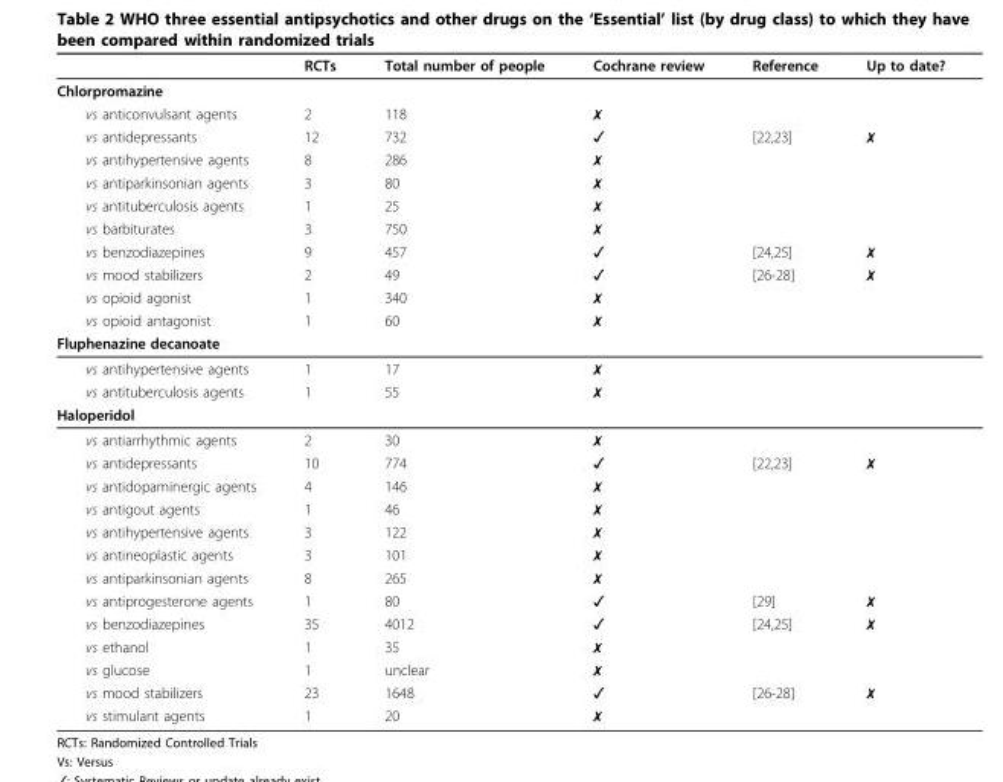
<table><thead><tr><td></td><td>RCTs</td><td>Total number of people</td><td>Cochrane review</td><td>Reference</td><td>Up to date?</td></tr></thead><tbody><tr><td colspan="6">Chlorpromazine</td></tr><tr><td>vs anticonvulsant agents</td><td>2</td><td>118</td><td>✗</td><td></td><td></td></tr><tr><td>vs antidepressants</td><td>12</td><td>732</td><td>✓</td><td>[22,23]</td><td>✗</td></tr><tr><td>vs antihypertensive agents</td><td>8</td><td>286</td><td>✗</td><td></td><td></td></tr><tr><td>vs antiparkinsonian agents</td><td>3</td><td>80</td><td>✗</td><td></td><td></td></tr><tr><td>vs antituberculosis agents</td><td>1</td><td>25</td><td>✗</td><td></td><td></td></tr><tr><td>vs barbiturates</td><td>3</td><td>750</td><td>✗</td><td></td><td></td></tr><tr><td>vs benzodiazepines</td><td>9</td><td>457</td><td>✓</td><td>[24,25]</td><td>✗</td></tr><tr><td>vs mood stabilizers</td><td>2</td><td>49</td><td>✓</td><td>[26-28]</td><td>✗</td></tr><tr><td>vs opioid agonist</td><td>1</td><td>340</td><td>✗</td><td></td><td></td></tr><tr><td>vs opioid antagonist</td><td>1</td><td>60</td><td>✗</td><td></td><td></td></tr><tr><td colspan="6">Fluphenazine decanoate</td></tr><tr><td>vs antihypertensive agents</td><td>1</td><td>17</td><td>✗</td><td></td><td></td></tr><tr><td>vs antituberculosis agents</td><td>1</td><td>55</td><td>✗</td><td></td><td></td></tr><tr><td colspan="6">Haloperidol</td></tr><tr><td>vs antiarrhythmic agents</td><td>2</td><td>30</td><td>✗</td><td></td><td></td></tr><tr><td>vs antidepressants</td><td>10</td><td>774</td><td>✓</td><td>[22,23]</td><td>✗</td></tr><tr><td>vs antidopaminergic agents</td><td>4</td><td>146</td><td>✗</td><td></td><td></td></tr><tr><td>vs antigout agents</td><td>1</td><td>46</td><td>✗</td><td></td><td></td></tr><tr><td>vs antihypertensive agents</td><td>3</td><td>122</td><td>✗</td><td></td><td></td></tr><tr><td>vs antineoplastic agents</td><td>3</td><td>101</td><td>✗</td><td></td><td></td></tr><tr><td>vs antiparkinsonian agents</td><td>8</td><td>265</td><td>✗</td><td></td><td></td></tr><tr><td>vs antiprogesterone agents</td><td>1</td><td>80</td><td>✓</td><td>[29]</td><td>✗</td></tr><tr><td>vs benzodiazepines</td><td>35</td><td>4012</td><td>✓</td><td>[24,25]</td><td>✗</td></tr><tr><td>vs ethanol</td><td>1</td><td>35</td><td>✗</td><td></td><td></td></tr><tr><td>vs glucose</td><td>1</td><td>unclear</td><td>✗</td><td></td><td></td></tr><tr><td>vs mood stabilizers</td><td>23</td><td>1648</td><td>✓</td><td>[26-28]</td><td>✗</td></tr><tr><td>vs stimulant agents</td><td>1</td><td>20</td><td>✗</td><td></td><td></td></tr></tbody></table>